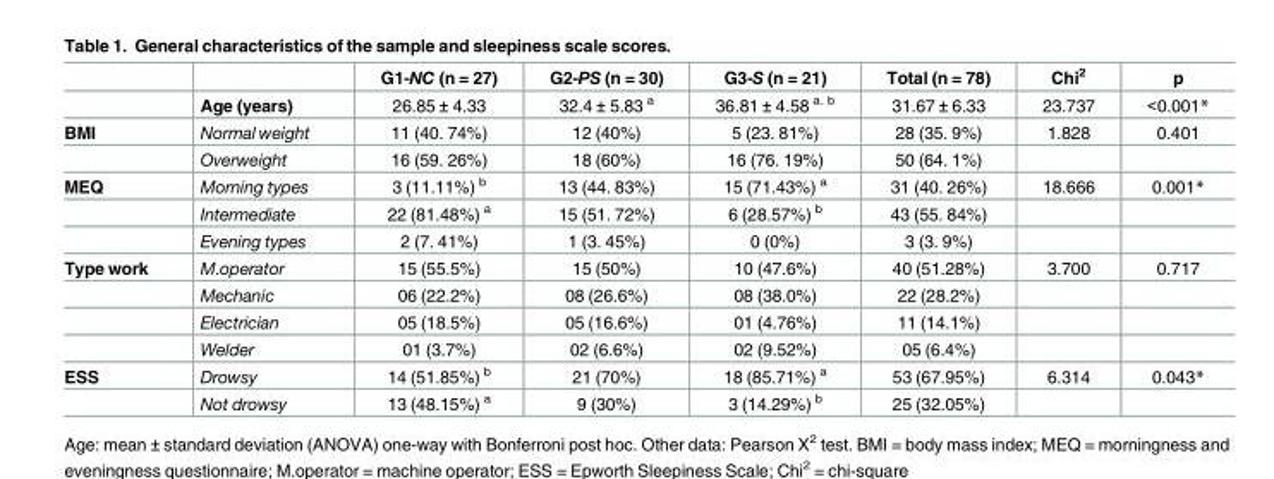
<table><thead><tr><td></td><td></td><td>G1-NC (n = 27)</td><td>G2-PS (n = 30)</td><td>G3-S (n = 21)</td><td>Total (n = 78)</td><td>Chi<sup>2</sup></td><td>p</td></tr></thead><tbody><tr><td></td><td>Age (years)</td><td>26.85 ± 4.33</td><td>32.4 ± 5.83 <sup>a</sup></td><td>36.81 ± 4.58 <sup>a. b</sup></td><td>31.67 ± 6.33</td><td>23.737</td><td>&lt;0.001*</td></tr><tr><td rowspan="2">BMI</td><td>Normal weight</td><td>11 (40. 74%)</td><td>12 (40%)</td><td>5 (23. 81%)</td><td>28 (35. 9%)</td><td>1.828</td><td>0.401</td></tr><tr><td>Overweight</td><td>16 (59. 26%)</td><td>18 (60%)</td><td>16 (76. 19%)</td><td>50 (64. 1%)</td><td></td><td></td></tr><tr><td rowspan="3">MEQ</td><td>Morning types</td><td>3 (11.11%) <sup>b</sup></td><td>13 (44. 83%)</td><td>15 (71.43%) <sup>a</sup></td><td>31 (40. 26%)</td><td>18.666</td><td>0.001*</td></tr><tr><td>Intermediate</td><td>22 (81.48%) <sup>a</sup></td><td>15 (51. 72%)</td><td>6 (28.57%) <sup>b</sup></td><td>43 (55. 84%)</td><td></td><td></td></tr><tr><td>Evening types</td><td>2 (7. 41%)</td><td>1 (3. 45%)</td><td>0 (0%)</td><td>3 (3. 9%)</td><td></td><td></td></tr><tr><td rowspan="4">Type work</td><td>M.operator</td><td>15 (55.5%)</td><td>15 (50%)</td><td>10 (47.6%)</td><td>40 (51.28%)</td><td>3.700</td><td>0.717</td></tr><tr><td>Mechanic</td><td>06 (22.2%)</td><td>08 (26.6%)</td><td>08 (38.0%)</td><td>22 (28.2%)</td><td></td><td></td></tr><tr><td>Electrician</td><td>05 (18.5%)</td><td>05 (16.6%)</td><td>01 (4.76%)</td><td>11 (14.1%)</td><td></td><td></td></tr><tr><td>Welder</td><td>01 (3.7%)</td><td>02 (6.6%)</td><td>02 (9.52%)</td><td>05 (6.4%)</td><td></td><td></td></tr><tr><td rowspan="2">ESS</td><td>Drowsy</td><td>14 (51.85%) <sup>b</sup></td><td>21 (70%)</td><td>18 (85.71%) <sup>a</sup></td><td>53 (67.95%)</td><td>6.314</td><td>0.043*</td></tr><tr><td>Not drowsy</td><td>13 (48.15%) <sup>a</sup></td><td>9 (30%)</td><td>3 (14.29%) <sup>b</sup></td><td>25 (32.05%)</td><td></td><td></td></tr></tbody></table>